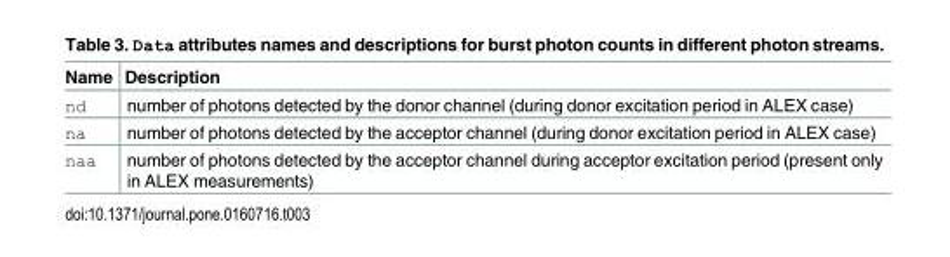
<table><thead><tr><td>Name</td><td>Description</td></tr></thead><tbody><tr><td>nd</td><td>number of photons detected by the donor channel (during donor excitation period in ALEX case)</td></tr><tr><td>na</td><td>number of photons detected by the acceptor channel (during donor excitation period in ALEX case)</td></tr><tr><td>naa</td><td>number of photons detected by the acceptor channel during acceptor excitation period (present only in ALEX measurements)</td></tr></tbody></table>